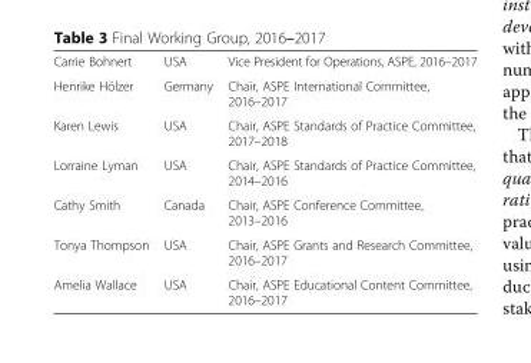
<table><tbody><tr><td>Carrie Bohnert</td><td>USA</td><td>Vice President for Operations, ASPE, 2016–2017</td></tr><tr><td>Henrike Hölzer</td><td>Germany</td><td>Chair, ASPE International Committee, 2016–2017</td></tr><tr><td>Karen Lewis</td><td>USA</td><td>Chair, ASPE Standards of Practice Committee, 2017–2018</td></tr><tr><td>Lorraine Lyman</td><td>USA</td><td>Chair, ASPE Standards of Practice Committee, 2014–2016</td></tr><tr><td>Cathy Smith</td><td>Canada</td><td>Chair, ASPE Conference Committee, 2013–2016</td></tr><tr><td>Tonya Thompson</td><td>USA</td><td>Chair, ASPE Grants and Research Committee, 2016–2017</td></tr><tr><td>Amelia Wallace</td><td>USA</td><td>Chair, ASPE Educational Content Committee, 2016–2017</td></tr></tbody></table>